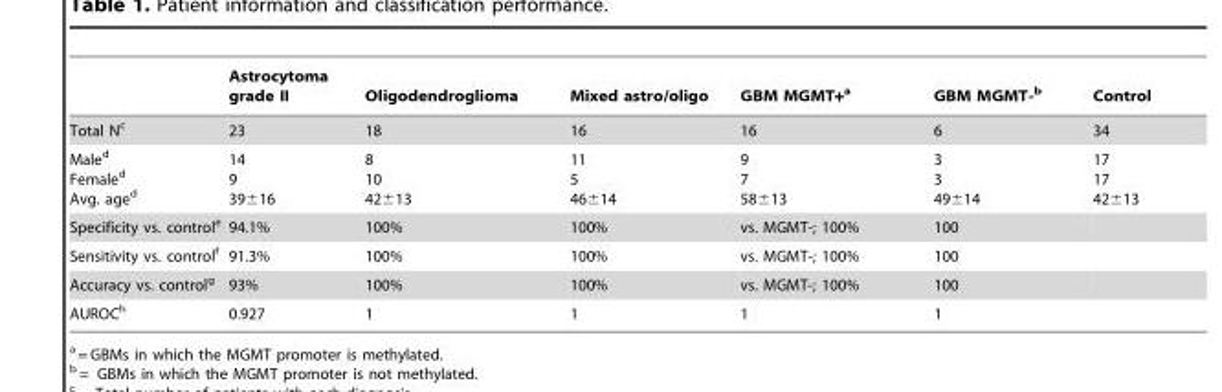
<table><thead><tr><td></td><td>Astrocytoma grade II</td><td>Oligodendroglioma</td><td>Mixed astro/oligo</td><td>GBM MGMT+<sup>a</sup></td><td>GBM MGMT-b</td><td>Control</td></tr></thead><tbody><tr><td>Total N<sup>c</sup></td><td>23</td><td>18</td><td>16</td><td>16</td><td>6</td><td>34</td></tr><tr><td>Male<sup>d</sup> Female<sup>d</sup> Avg. age<sup>d</sup></td><td>14 9 39±16</td><td>8 10 42±13</td><td>11 5 46±14</td><td>9 7 58±13</td><td>3 3 49±14</td><td>17 17 42±13</td></tr><tr><td>Specificity vs. control<sup>e</sup></td><td>94.1%</td><td>100%</td><td>100%</td><td>vs. MGMT-; 100%</td><td>100</td><td></td></tr><tr><td>Sensitivity vs. control<sup>f</sup></td><td>91.3%</td><td>100%</td><td>100%</td><td>vs. MGMT-; 100%</td><td>100</td><td></td></tr><tr><td>Accuracy vs. control<sup>g</sup></td><td>93%</td><td>100%</td><td>100%</td><td>vs. MGMT-; 100%</td><td>100</td><td></td></tr><tr><td>AUROC<sup>h</sup></td><td>0.927</td><td>1</td><td>1</td><td>1</td><td>1</td><td></td></tr></tbody></table>